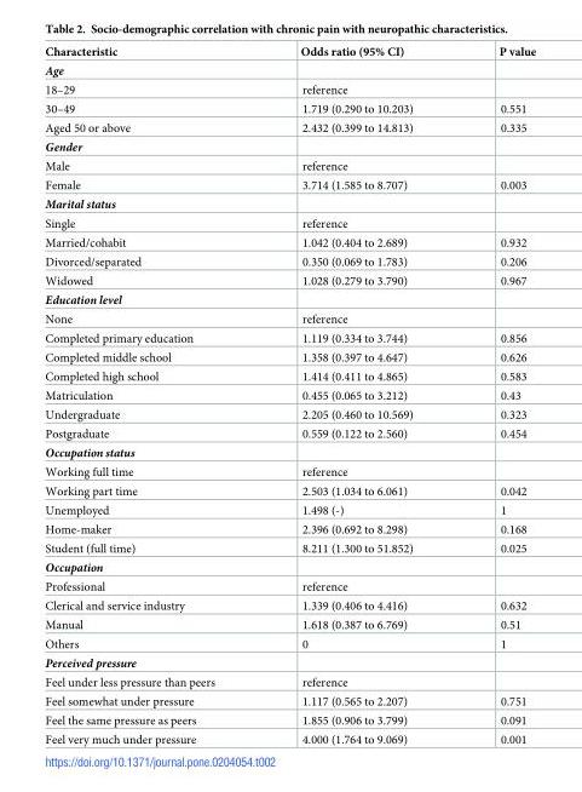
<table><thead><tr><td>Characteristic</td><td>Odds ratio (95% CI)</td><td>P value</td></tr></thead><tbody><tr><td colspan="3">Age</td></tr><tr><td>18–29</td><td>reference</td><td></td></tr><tr><td>30–49</td><td>1.719 (0.290 to 10.203)</td><td>0.551</td></tr><tr><td>Aged 50 or above</td><td>2.432 (0.399 to 14.813)</td><td>0.335</td></tr><tr><td colspan="3">Gender</td></tr><tr><td>Male</td><td>reference</td><td></td></tr><tr><td>Female</td><td>3.714 (1.585 to 8.707)</td><td>0.003</td></tr><tr><td colspan="3">Marital status</td></tr><tr><td>Single</td><td>reference</td><td></td></tr><tr><td>Married/cohabit</td><td>1.042 (0.404 to 2.689)</td><td>0.932</td></tr><tr><td>Divorced/separated</td><td>0.350 (0.069 to 1.783)</td><td>0.206</td></tr><tr><td>Widowed</td><td>1.028 (0.279 to 3.790)</td><td>0.967</td></tr><tr><td colspan="3">Education level</td></tr><tr><td>None</td><td>reference</td><td></td></tr><tr><td>Completed primary education</td><td>1.119 (0.334 to 3.744)</td><td>0.856</td></tr><tr><td>Completed middle school</td><td>1.358 (0.397 to 4.647)</td><td>0.626</td></tr><tr><td>Completed high school</td><td>1.414 (0.411 to 4.865)</td><td>0.583</td></tr><tr><td>Matriculation</td><td>0.455 (0.065 to 3.212)</td><td>0.43</td></tr><tr><td>Undergraduate</td><td>2.205 (0.460 to 10.569)</td><td>0.323</td></tr><tr><td>Postgraduate</td><td>0.559 (0.122 to 2.560)</td><td>0.454</td></tr><tr><td colspan="3">Occupation status</td></tr><tr><td>Working full time</td><td>reference</td><td></td></tr><tr><td>Working part time</td><td>2.503 (1.034 to 6.061)</td><td>0.042</td></tr><tr><td>Unemployed</td><td>1.498 (-)</td><td>1</td></tr><tr><td>Home-maker</td><td>2.396 (0.692 to 8.298)</td><td>0.168</td></tr><tr><td>Student (full time)</td><td>8.211 (1.300 to 51.852)</td><td>0.025</td></tr><tr><td colspan="3">Occupation</td></tr><tr><td>Professional</td><td>reference</td><td></td></tr><tr><td>Clerical and service industry</td><td>1.339 (0.406 to 4.416)</td><td>0.632</td></tr><tr><td>Manual</td><td>1.618 (0.387 to 6.769)</td><td>0.51</td></tr><tr><td>Others</td><td>0</td><td>1</td></tr><tr><td colspan="3">Perceived pressure</td></tr><tr><td>Feel under less pressure than peers</td><td>reference</td><td></td></tr><tr><td>Feel somewhat under pressure</td><td>1.117 (0.565 to 2.207)</td><td>0.751</td></tr><tr><td>Feel the same pressure as peers</td><td>1.855 (0.906 to 3.799)</td><td>0.091</td></tr><tr><td>Feel very much under pressure</td><td>4.000 (1.764 to 9.069)</td><td>0.001</td></tr></tbody></table>